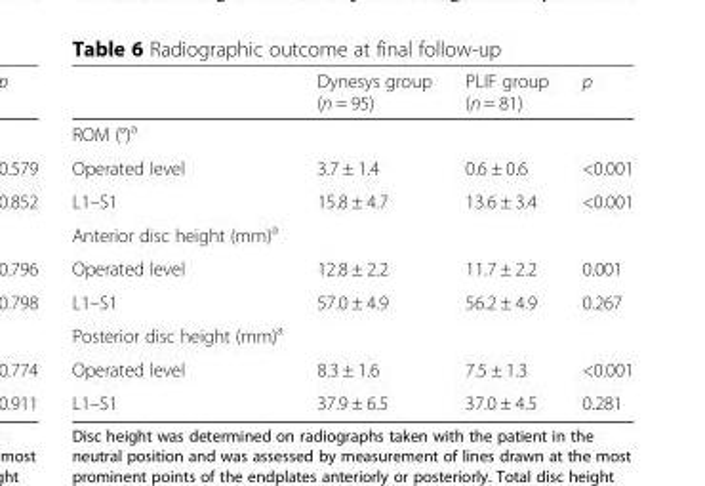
<table><thead><tr><td></td><td>Dynesys group (n = 95)</td><td>PLIF group (n = 81)</td><td>p</td></tr></thead><tbody><tr><td colspan="4">ROM (°)<sup>a</sup></td></tr><tr><td>Operated level</td><td>3.7 ± 1.4</td><td>0.6 ± 0.6</td><td>&lt;0.001</td></tr><tr><td>L1–S1</td><td>15.8 ± 4.7</td><td>13.6 ± 3.4</td><td>&lt;0.001</td></tr><tr><td colspan="4">Anterior disc height (mm)<sup>a</sup></td></tr><tr><td>Operated level</td><td>12.8 ± 2.2</td><td>11.7 ± 2.2</td><td>0.001</td></tr><tr><td>L1–S1</td><td>57.0 ± 4.9</td><td>56.2 ± 4.9</td><td>0.267</td></tr><tr><td colspan="4">Posterior disc height (mm)<sup>a</sup></td></tr><tr><td>Operated level</td><td>8.3 ± 1.6</td><td>7.5 ± 1.3</td><td>&lt;0.001</td></tr><tr><td>L1–S1</td><td>37.9 ± 6.5</td><td>37.0 ± 4.5</td><td>0.281</td></tr></tbody></table>